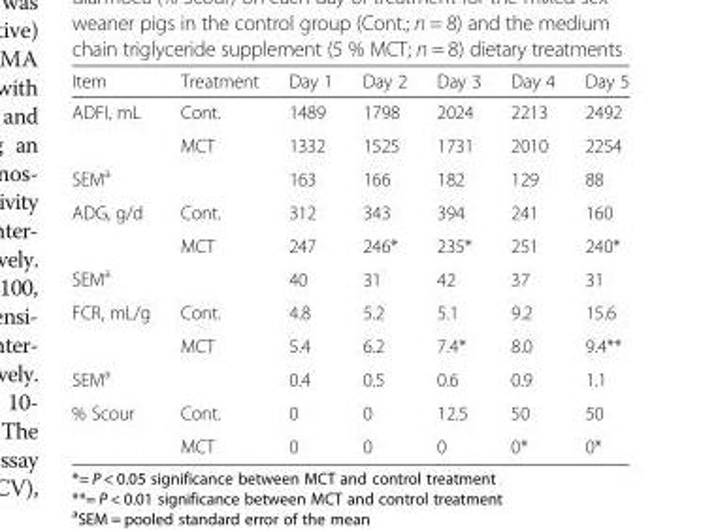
<table><thead><tr><td>Item</td><td>Treatment</td><td>Day 1</td><td>Day 2</td><td>Day 3</td><td>Day 4</td><td>Day 5</td></tr></thead><tbody><tr><td rowspan="2">ADFI, mL</td><td>Cont.</td><td>1489</td><td>1798</td><td>2024</td><td>2213</td><td>2492</td></tr><tr><td>MCT</td><td>1332</td><td>1525</td><td>1731</td><td>2010</td><td>2254</td></tr><tr><td>SEM<sup>a</sup></td><td></td><td>163</td><td>166</td><td>182</td><td>129</td><td>88</td></tr><tr><td rowspan="2">ADG, g/d</td><td>Cont.</td><td>312</td><td>343</td><td>394</td><td>241</td><td>160</td></tr><tr><td>MCT</td><td>247</td><td>246*</td><td>235*</td><td>251</td><td>240*</td></tr><tr><td>SEM<sup>a</sup></td><td></td><td>40</td><td>31</td><td>42</td><td>37</td><td>31</td></tr><tr><td rowspan="2">FCR, mL/g</td><td>Cont.</td><td>4.8</td><td>5.2</td><td>5.1</td><td>9.2</td><td>15.6</td></tr><tr><td>MCT</td><td>5.4</td><td>6.2</td><td>7.4*</td><td>8.0</td><td>9.4**</td></tr><tr><td>SEM<sup>a</sup></td><td></td><td>0.4</td><td>0.5</td><td>0.6</td><td>0.9</td><td>1.1</td></tr><tr><td rowspan="2">% Scour</td><td>Cont.</td><td>0</td><td>0</td><td>12.5</td><td>50</td><td>50</td></tr><tr><td>MCT</td><td>0</td><td>0</td><td>0</td><td>0*</td><td>0*</td></tr></tbody></table>